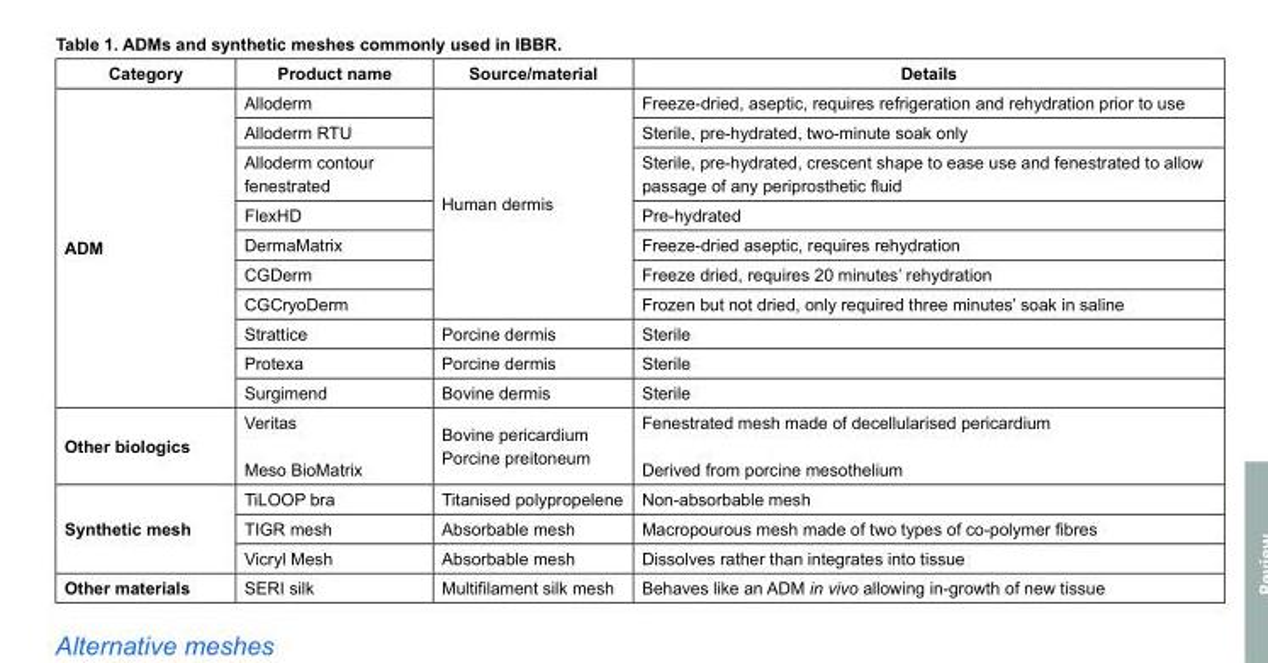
<table><thead><tr><td>Category</td><td>Product name</td><td>Source/material</td><td>Details</td></tr></thead><tbody><tr><td rowspan="10">ADM</td><td>Alloderm</td><td rowspan="7">Human dermis</td><td>Freeze-dried, aseptic, requires refrigeration and rehydration prior to use</td></tr><tr><td>Alloderm RTU</td><td>Sterile, pre-hydrated, two-minute soak only</td></tr><tr><td>Alloderm contour fenestrated</td><td>Sterile, pre-hydrated, crescent shape to ease use and fenestrated to allow passage of any periprosthetic fluid</td></tr><tr><td>FlexHD</td><td>Pre-hydrated</td></tr><tr><td>DermaMatrix</td><td>Freeze-dried aseptic, requires rehydration</td></tr><tr><td>CGDerm</td><td>Freeze dried, requires 20 minutes’ rehydration</td></tr><tr><td>CGCryoDerm</td><td>Frozen but not dried, only required three minutes’ soak in saline</td></tr><tr><td>Strattice</td><td>Porcine dermis</td><td>Sterile</td></tr><tr><td>Protexa</td><td>Porcine dermis</td><td>Sterile</td></tr><tr><td>Surgimend</td><td>Bovine dermis</td><td>Sterile</td></tr><tr><td>Other biologics</td><td>Veritas Meso BioMatrix</td><td>Bovine pericardium Porcine preitoneum</td><td>Fenestrated mesh made of decellularised pericardium Derived from porcine mesothelium</td></tr><tr><td rowspan="3">Synthetic mesh</td><td>TiLOOP bra</td><td>Titanised polypropelene</td><td>Non-absorbable mesh</td></tr><tr><td>TIGR mesh</td><td>Absorbable mesh</td><td>Macropourous mesh made of two types of co-polymer fibres</td></tr><tr><td>Vicryl Mesh</td><td>Absorbable mesh</td><td>Dissolves rather than integrates into tissue</td></tr><tr><td>Other materials</td><td>SERI silk</td><td>Multifilament silk mesh</td><td>Behaves like an ADM in vivo allowing in-growth of new tissue</td></tr></tbody></table>